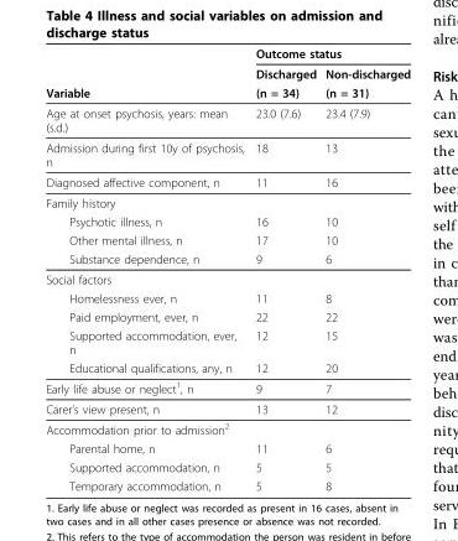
<table><thead><tr><td rowspan="3">Variable</td><td colspan="2">Outcome status</td></tr><tr><td rowspan="2">Discharged (n = 34)</td><td rowspan="2">Non-discharged (n = 31)</td></tr><tr></tr></thead><tbody><tr><td>Age at onset psychosis, years: mean (s.d.)</td><td>23.0 (7.6)</td><td>23.4 (7.9)</td></tr><tr><td>Admission during first 10y of psychosis, n</td><td>18</td><td>13</td></tr><tr><td>Diagnosed affective component, n</td><td>11</td><td>16</td></tr><tr><td colspan="3">Family history</td></tr><tr><td>Psychotic illness, n</td><td>16</td><td>10</td></tr><tr><td>Other mental illness, n</td><td>17</td><td>10</td></tr><tr><td>Substance dependence, n</td><td>9</td><td>6</td></tr><tr><td colspan="3">Social factors</td></tr><tr><td>Homelessness ever, n</td><td>11</td><td>8</td></tr><tr><td>Paid employment, ever, n</td><td>22</td><td>22</td></tr><tr><td>Supported accommodation, ever, n</td><td>12</td><td>15</td></tr><tr><td>Educational qualifications, any, n</td><td>12</td><td>20</td></tr><tr><td>Early life abuse or neglect<sup>1</sup>, n</td><td>9</td><td>7</td></tr><tr><td>Carer’s view present, n</td><td>13</td><td>12</td></tr><tr><td colspan="3">Accommodation prior to admission<sup>2</sup></td></tr><tr><td>Parental home, n</td><td>11</td><td>6</td></tr><tr><td>Supported accommodation, n</td><td>5</td><td>5</td></tr><tr><td>Temporary accommodation, n</td><td>5</td><td>8</td></tr></tbody></table>